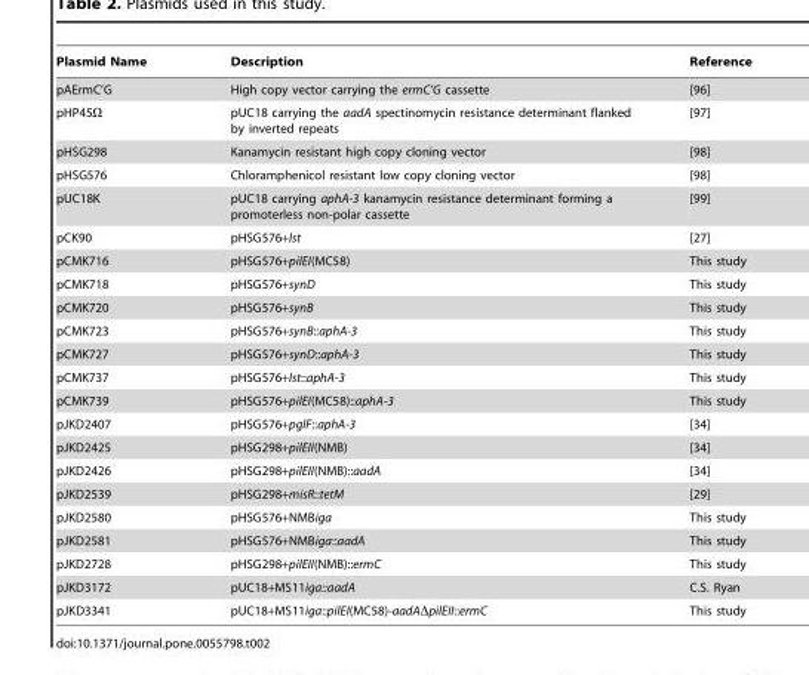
<table><thead><tr><td>Plasmid Name</td><td>Description</td><td>Reference</td></tr></thead><tbody><tr><td>pAErmC’G</td><td>High copy vector carrying the ermC’G cassette</td><td>[96]</td></tr><tr><td>pHP45Ω</td><td>pUC18 carrying the aadA spectinomycin resistance determinant flanked by inverted repeats</td><td>[97]</td></tr><tr><td>pHSG298</td><td>Kanamycin resistant high copy cloning vector</td><td>[98]</td></tr><tr><td>pHSG576</td><td>Chloramphenicol resistant low copy cloning vector</td><td>[98]</td></tr><tr><td>pUC18K</td><td>pUC18 carrying aphA-3 kanamycin resistance determinant forming a promoterless non-polar cassette</td><td>[99]</td></tr><tr><td>pCK90</td><td>pHSG576+lst</td><td>[27]</td></tr><tr><td>pCMK716</td><td>pHSG576+pilEI(MC58)</td><td>This study</td></tr><tr><td>pCMK718</td><td>pHSG576+synD</td><td>This study</td></tr><tr><td>pCMK720</td><td>pHSG576+synB</td><td>This study</td></tr><tr><td>pCMK723</td><td>pHSG576+synB::aphA-3</td><td>This study</td></tr><tr><td>pCMK727</td><td>pHSG576+synD::aphA-3</td><td>This study</td></tr><tr><td>pCMK737</td><td>pHSG576+lst::aphA-3</td><td>This study</td></tr><tr><td>pCMK739</td><td>pHSG576+pilEI(MC58)::aphA-3</td><td>This study</td></tr><tr><td>pJKD2407</td><td>pHSG576+pglF::aphA-3</td><td>[34]</td></tr><tr><td>pJKD2425</td><td>pHSG298+pilEII(NMB)</td><td>[34]</td></tr><tr><td>pJKD2426</td><td>pHSG298+pilEII(NMB)::aadA</td><td>[34]</td></tr><tr><td>pJKD2539</td><td>pHSG298+misR::tetM</td><td>[29]</td></tr><tr><td>pJKD2580</td><td>pHSG576+NMBiga</td><td>This study</td></tr><tr><td>pJKD2581</td><td>pHSG576+NMBiga::aadA</td><td>This study</td></tr><tr><td>pJKD2728</td><td>pHSG298+pilEII(NMB)::ermC</td><td>This study</td></tr><tr><td>pJKD3172</td><td>pUC18+MS11iga::aadA</td><td>C.S. Ryan</td></tr><tr><td>pJKD3341</td><td>pUC18+MS11iga::pilEI(MC58)-aadAΔpilEII::ermC</td><td>This study</td></tr></tbody></table>